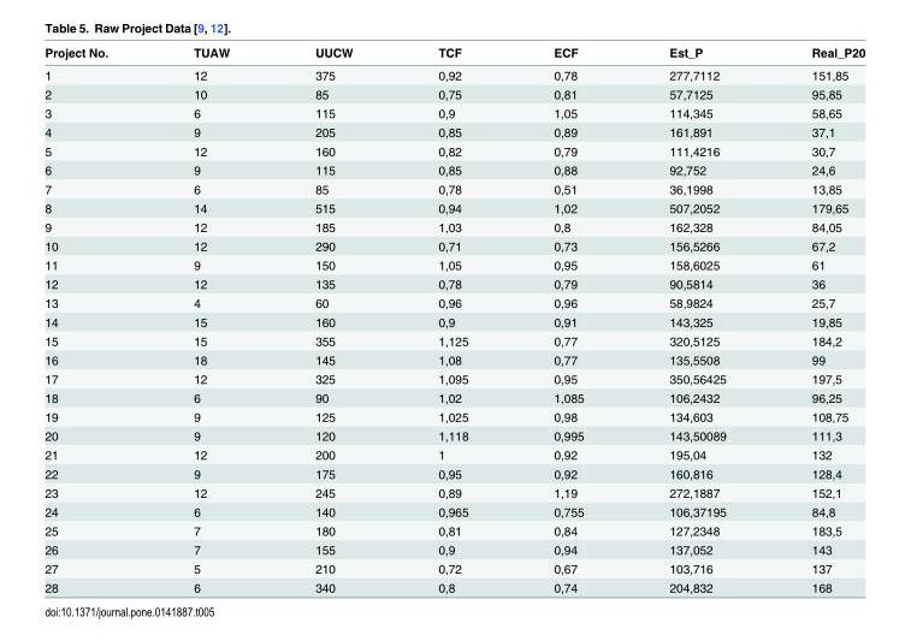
<table><thead><tr><td>Project No.</td><td>TUAW</td><td>UUCW</td><td>TCF</td><td>ECF</td><td>Est_P</td><td>Real_P20</td></tr></thead><tbody><tr><td>1</td><td>12</td><td>375</td><td>0,92</td><td>0,78</td><td>277,7112</td><td>151,85</td></tr><tr><td>2</td><td>10</td><td>85</td><td>0,75</td><td>0,81</td><td>57,7125</td><td>95,85</td></tr><tr><td>3</td><td>6</td><td>115</td><td>0,9</td><td>1,05</td><td>114,345</td><td>58,65</td></tr><tr><td>4</td><td>9</td><td>205</td><td>0,85</td><td>0,89</td><td>161,891</td><td>37,1</td></tr><tr><td>5</td><td>12</td><td>160</td><td>0,82</td><td>0,79</td><td>111,4216</td><td>30,7</td></tr><tr><td>6</td><td>9</td><td>115</td><td>0,85</td><td>0,88</td><td>92,752</td><td>24,6</td></tr><tr><td>7</td><td>6</td><td>85</td><td>0,78</td><td>0,51</td><td>36,1998</td><td>13,85</td></tr><tr><td>8</td><td>14</td><td>515</td><td>0,94</td><td>1,02</td><td>507,2052</td><td>179,65</td></tr><tr><td>9</td><td>12</td><td>185</td><td>1,03</td><td>0,8</td><td>162,328</td><td>84,05</td></tr><tr><td>10</td><td>12</td><td>290</td><td>0,71</td><td>0,73</td><td>156,5266</td><td>67,2</td></tr><tr><td>11</td><td>9</td><td>150</td><td>1,05</td><td>0,95</td><td>158,6025</td><td>61</td></tr><tr><td>12</td><td>12</td><td>135</td><td>0,78</td><td>0,79</td><td>90,5814</td><td>36</td></tr><tr><td>13</td><td>4</td><td>60</td><td>0,96</td><td>0,96</td><td>58,9824</td><td>25,7</td></tr><tr><td>14</td><td>15</td><td>160</td><td>0,9</td><td>0,91</td><td>143,325</td><td>19,85</td></tr><tr><td>15</td><td>15</td><td>355</td><td>1,125</td><td>0,77</td><td>320,5125</td><td>184,2</td></tr><tr><td>16</td><td>18</td><td>145</td><td>1,08</td><td>0,77</td><td>135,5508</td><td>99</td></tr><tr><td>17</td><td>12</td><td>325</td><td>1,095</td><td>0,95</td><td>350,56425</td><td>197,5</td></tr><tr><td>18</td><td>6</td><td>90</td><td>1,02</td><td>1,085</td><td>106,2432</td><td>96,25</td></tr><tr><td>19</td><td>9</td><td>125</td><td>1,025</td><td>0,98</td><td>134,603</td><td>108,75</td></tr><tr><td>20</td><td>9</td><td>120</td><td>1,118</td><td>0,995</td><td>143,50089</td><td>111,3</td></tr><tr><td>21</td><td>12</td><td>200</td><td>1</td><td>0,92</td><td>195,04</td><td>132</td></tr><tr><td>22</td><td>9</td><td>175</td><td>0,95</td><td>0,92</td><td>160,816</td><td>128,4</td></tr><tr><td>23</td><td>12</td><td>245</td><td>0,89</td><td>1,19</td><td>272,1887</td><td>152,1</td></tr><tr><td>24</td><td>6</td><td>140</td><td>0,965</td><td>0,755</td><td>106,37195</td><td>84,8</td></tr><tr><td>25</td><td>7</td><td>180</td><td>0,81</td><td>0,84</td><td>127,2348</td><td>183,5</td></tr><tr><td>26</td><td>7</td><td>155</td><td>0,9</td><td>0,94</td><td>137,052</td><td>143</td></tr><tr><td>27</td><td>5</td><td>210</td><td>0,72</td><td>0,67</td><td>103,716</td><td>137</td></tr><tr><td>28</td><td>6</td><td>340</td><td>0,8</td><td>0,74</td><td>204,832</td><td>168</td></tr></tbody></table>